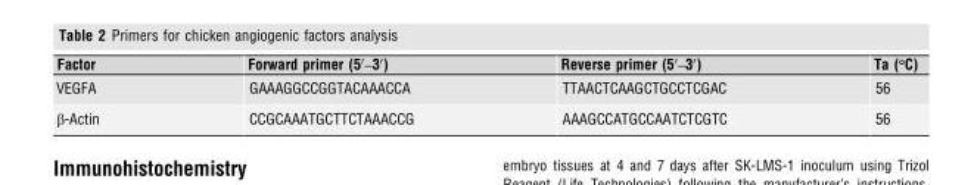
<table><thead><tr><td>Factor</td><td>Forward primer (5′–3′)</td><td>Reverse primer (5′–3′)</td><td>Ta (°C)</td></tr></thead><tbody><tr><td>VEGFA</td><td>GAAAGGCCGGTACAAACCA</td><td>TTAACTCAAGCTGCCTCGAC</td><td>56</td></tr><tr><td>β-Actin</td><td>CCGCAAATGCTTCTAAACCG</td><td>AAAGCCATGCCAATCTCGTC</td><td>56</td></tr></tbody></table>